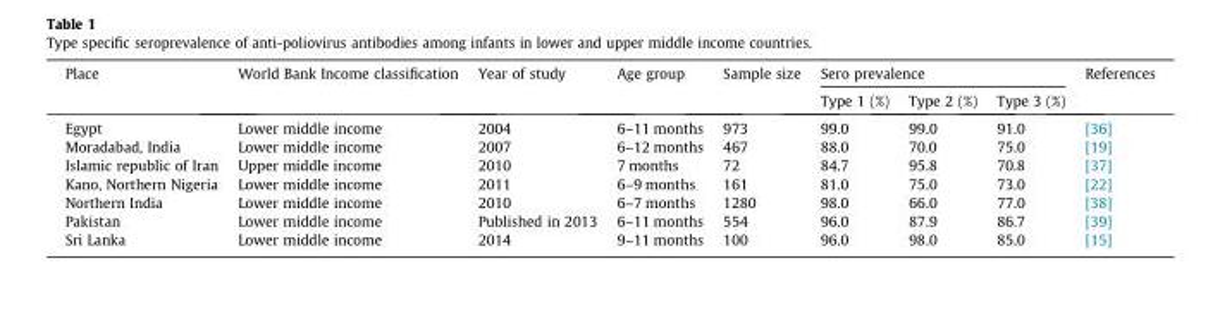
<table><thead><tr><td rowspan="2">Place</td><td rowspan="2">World Bank Income classification</td><td rowspan="2">Year of study</td><td rowspan="2">Age group</td><td rowspan="2">Sample size</td><td colspan="3">Sero prevalence</td><td rowspan="2">References</td></tr><tr><td>Type 1 (%)</td><td>Type 2 (%)</td><td>Type 3 (%)</td></tr></thead><tbody><tr><td>Egypt</td><td>Lower middle income</td><td>2004</td><td>6–11 months</td><td>973</td><td>99.0</td><td>99.0</td><td>91.0</td><td>[36]</td></tr><tr><td>Moradabad, India</td><td>Lower middle income</td><td>2007</td><td>6–12 months</td><td>467</td><td>88.0</td><td>70.0</td><td>75.0</td><td>[19]</td></tr><tr><td>Islamic republic of Iran</td><td>Upper middle income</td><td>2010</td><td>7 months</td><td>72</td><td>84.7</td><td>95.8</td><td>70.8</td><td>[37]</td></tr><tr><td>Kano, Northern Nigeria</td><td>Lower middle income</td><td>2011</td><td>6–9 months</td><td>161</td><td>81.0</td><td>75.0</td><td>73.0</td><td>[22]</td></tr><tr><td>Northern India</td><td>Lower middle income</td><td>2010</td><td>6–7 months</td><td>1280</td><td>98.0</td><td>66.0</td><td>77.0</td><td>[38]</td></tr><tr><td>Pakistan</td><td>Lower middle income</td><td>Published in 2013</td><td>6–11 months</td><td>554</td><td>96.0</td><td>87.9</td><td>86.7</td><td>[39]</td></tr><tr><td>Sri Lanka</td><td>Lower middle income</td><td>2014</td><td>9–11 months</td><td>100</td><td>96.0</td><td>98.0</td><td>85.0</td><td>[15]</td></tr></tbody></table>